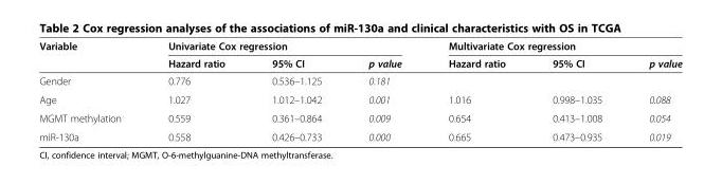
<table><thead><tr><td rowspan="2">Variable</td><td colspan="3">Univariate Cox regression</td><td colspan="3">Multivariate Cox regression</td></tr><tr><td>Hazard ratio</td><td>95% CI</td><td>p value</td><td>Hazard ratio</td><td>95% CI</td><td>p value</td></tr></thead><tbody><tr><td>Gender</td><td>0.776</td><td>0.536–1.125</td><td>0.181</td><td></td><td></td><td></td></tr><tr><td>Age</td><td>1.027</td><td>1.012–1.042</td><td>0.001</td><td>1.016</td><td>0.998–1.035</td><td>0.088</td></tr><tr><td>MGMT methylation</td><td>0.559</td><td>0.361–0.864</td><td>0.009</td><td>0.654</td><td>0.413–1.008</td><td>0.054</td></tr><tr><td>miR-130a</td><td>0.558</td><td>0.426–0.733</td><td>0.000</td><td>0.665</td><td>0.473–0.935</td><td>0.019</td></tr></tbody></table>